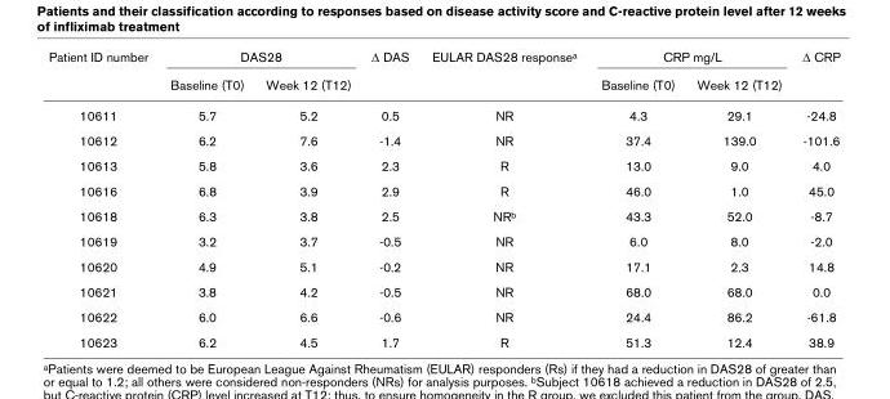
<table><thead><tr><td rowspan="2">Patient ID number</td><td colspan="2">DAS28</td><td rowspan="2">Δ DAS</td><td rowspan="2">EULAR DAS28 response<sup>a</sup></td><td colspan="2">CRP mg/L</td><td rowspan="2">Δ CRP</td></tr><tr><td>Baseline (T0)</td><td>Week 12 (T12)</td><td>Baseline (T0)</td><td>Week 12 (T12)</td></tr></thead><tbody><tr><td>10611</td><td>5.7</td><td>5.2</td><td>0.5</td><td>NR</td><td>4.3</td><td>29.1</td><td>-24.8</td></tr><tr><td>10612</td><td>6.2</td><td>7.6</td><td>-1.4</td><td>NR</td><td>37.4</td><td>139.0</td><td>-101.6</td></tr><tr><td>10613</td><td>5.8</td><td>3.6</td><td>2.3</td><td>R</td><td>13.0</td><td>9.0</td><td>4.0</td></tr><tr><td>10616</td><td>6.8</td><td>3.9</td><td>2.9</td><td>R</td><td>46.0</td><td>1.0</td><td>45.0</td></tr><tr><td>10618</td><td>6.3</td><td>3.8</td><td>2.5</td><td>NR<sup>b</sup></td><td>43.3</td><td>52.0</td><td>-8.7</td></tr><tr><td>10619</td><td>3.2</td><td>3.7</td><td>-0.5</td><td>NR</td><td>6.0</td><td>8.0</td><td>-2.0</td></tr><tr><td>10620</td><td>4.9</td><td>5.1</td><td>-0.2</td><td>NR</td><td>17.1</td><td>2.3</td><td>14.8</td></tr><tr><td>10621</td><td>3.8</td><td>4.2</td><td>-0.5</td><td>NR</td><td>68.0</td><td>68.0</td><td>0.0</td></tr><tr><td>10622</td><td>6.0</td><td>6.6</td><td>-0.6</td><td>NR</td><td>24.4</td><td>86.2</td><td>-61.8</td></tr><tr><td>10623</td><td>6.2</td><td>4.5</td><td>1.7</td><td>R</td><td>51.3</td><td>12.4</td><td>38.9</td></tr></tbody></table>